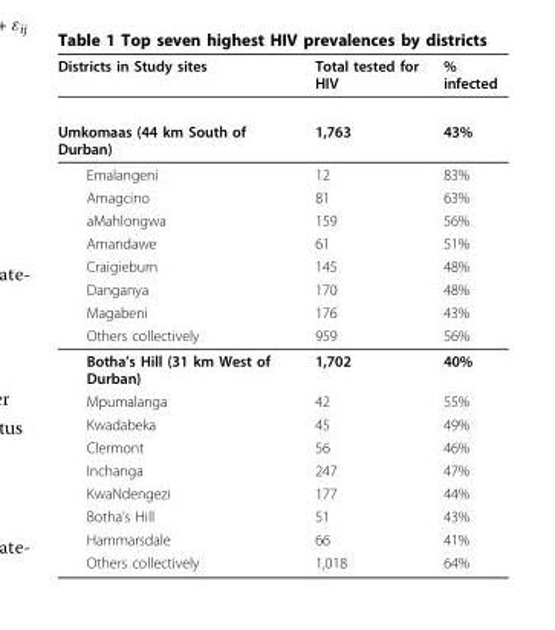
<table><thead><tr><td>Districts in Study sites</td><td>Total tested for HIV</td><td>% infected</td></tr></thead><tbody><tr><td>Umkomaas (44 km South of Durban)</td><td>1,763</td><td>43%</td></tr><tr><td>Emalangeni</td><td>12</td><td>83%</td></tr><tr><td>Amagcino</td><td>81</td><td>63%</td></tr><tr><td>aMahlongwa</td><td>159</td><td>56%</td></tr><tr><td>Amandawe</td><td>61</td><td>51%</td></tr><tr><td>Craigieburn</td><td>145</td><td>48%</td></tr><tr><td>Danganya</td><td>170</td><td>48%</td></tr><tr><td>Magabeni</td><td>176</td><td>43%</td></tr><tr><td>Others collectively</td><td>959</td><td>56%</td></tr><tr><td>Botha’s Hill (31 km West of Durban)</td><td>1,702</td><td>40%</td></tr><tr><td>Mpumalanga</td><td>42</td><td>55%</td></tr><tr><td>Kwadabeka</td><td>45</td><td>49%</td></tr><tr><td>Clermont</td><td>56</td><td>46%</td></tr><tr><td>Inchanga</td><td>247</td><td>47%</td></tr><tr><td>KwaNdengezi</td><td>177</td><td>44%</td></tr><tr><td>Botha’s Hill</td><td>51</td><td>43%</td></tr><tr><td>Hammarsdale</td><td>66</td><td>41%</td></tr><tr><td>Others collectively</td><td>1,018</td><td>64%</td></tr></tbody></table>